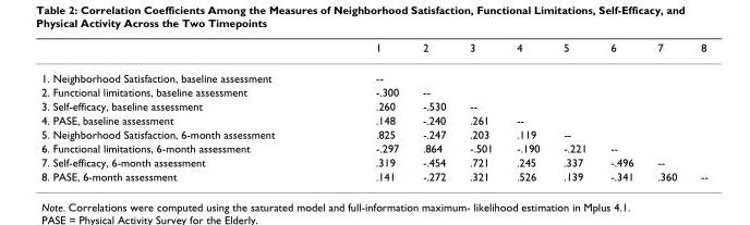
<table><thead><tr><td></td><td>1</td><td>2</td><td>3</td><td>4</td><td>5</td><td>6</td><td>7</td><td>8</td></tr></thead><tbody><tr><td>1. Neighborhood Satisfaction, baseline assessment</td><td>--</td><td></td><td></td><td></td><td></td><td></td><td></td><td></td></tr><tr><td>2. Functional limitations, baseline assessment</td><td>-.300</td><td>--</td><td></td><td></td><td></td><td></td><td></td><td></td></tr><tr><td>3. Self-efficacy, baseline assessment</td><td>.260</td><td>-.530</td><td>--</td><td></td><td></td><td></td><td></td><td></td></tr><tr><td>4. PASE, baseline assessment</td><td>.148</td><td>-.240</td><td>.261</td><td>--</td><td></td><td></td><td></td><td></td></tr><tr><td>5. Neighborhood Satisfaction, 6-month assessment</td><td>.825</td><td>-.247</td><td>.203</td><td>.119</td><td>--</td><td></td><td></td><td></td></tr><tr><td>6. Functional limitations, 6-month assessment</td><td>-.297</td><td>.864</td><td>-.501</td><td>-.190</td><td>-.221</td><td>--</td><td></td><td></td></tr><tr><td>7. Self-efficacy, 6-month assessment</td><td>.319</td><td>-.454</td><td>.721</td><td>.245</td><td>.337</td><td>-.496</td><td>--</td><td></td></tr><tr><td>8. PASE, 6-month assessment</td><td>.141</td><td>-.272</td><td>.321</td><td>.526</td><td>.139</td><td>-.341</td><td>.360</td><td>--</td></tr></tbody></table>